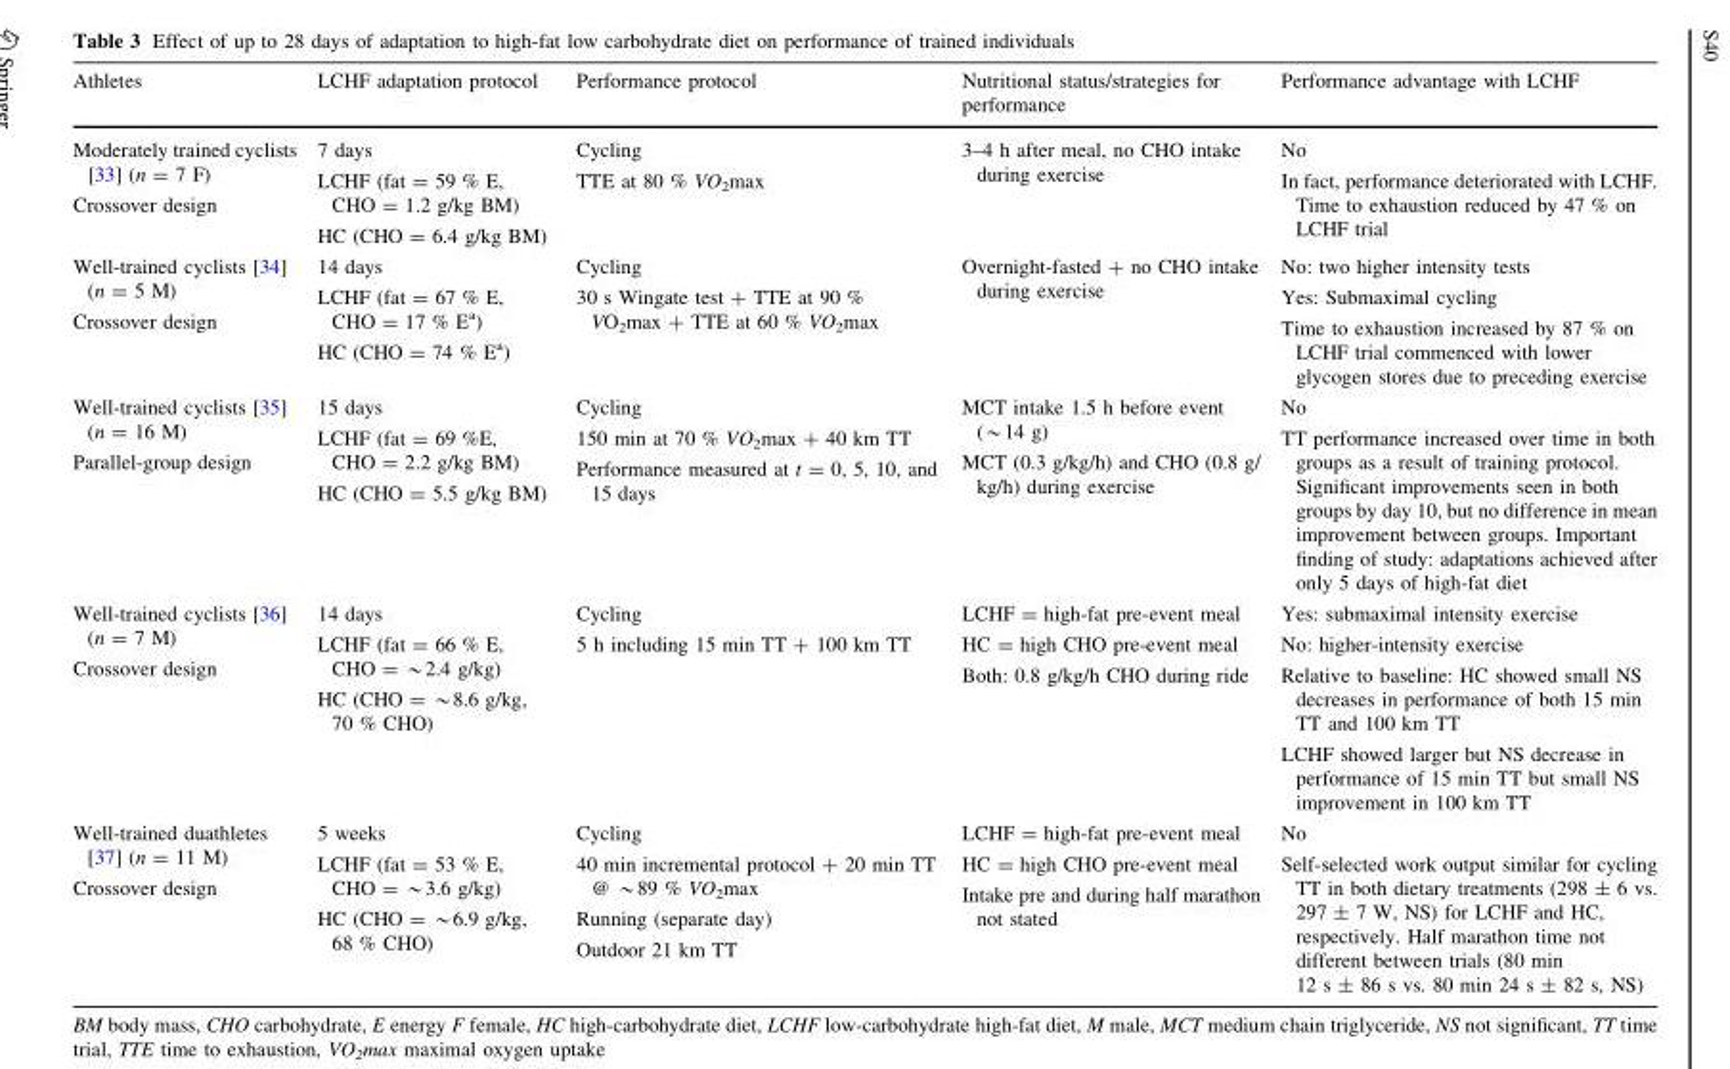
<table><thead><tr><td>Athletes</td><td>LCHF adaptation protocol</td><td>Performance protocol</td><td>Nutritional status/strategies for performance</td><td>Performance advantage with LCHF</td></tr></thead><tbody><tr><td>Moderately trained cyclists [33] (n = 7 F) Crossover design</td><td>7 days LCHF (fat = 59 % E, CHO = 1.2 g/kg BM) HC (CHO = 6.4 g/kg BM)</td><td>Cycling TTE at 80 % VO<sub>2</sub>max</td><td>3–4 h after meal, no CHO intake during exercise</td><td>No In fact, performance deteriorated with LCHF. Time to exhaustion reduced by 47 % on LCHF trial</td></tr><tr><td>Well-trained cyclists [34] (n = 5 M) Crossover design</td><td>14 days LCHF (fat = 67 % E, CHO = 17 % E<sup>a</sup>) HC (CHO = 74 % E<sup>a</sup>)</td><td>Cycling 30 s Wingate test + TTE at 90 % VO<sub>2</sub>max + TTE at 60 % VO<sub>2</sub>max</td><td>Overnight-fasted + no CHO intake during exercise</td><td>No: two higher intensity tests Yes: Submaximal cycling Time to exhaustion increased by 87 % on LCHF trial commenced with lower glycogen stores due to preceding exercise</td></tr><tr><td>Well-trained cyclists [35] (n = 16 M) Parallel-group design</td><td>15 days LCHF (fat = 69 %E, CHO = 2.2 g/kg BM) HC (CHO = 5.5 g/kg BM)</td><td>Cycling 150 min at 70 % VO<sub>2</sub>max + 40 km TT Performance measured at t = 0, 5, 10, and 15 days</td><td>MCT intake 1.5 h before event (*14 g) MCT (0.3 g/kg/h) and CHO (0.8 g/ kg/h) during exercise</td><td>No TT performance increased over time in both groups as a result of training protocol. Significant improvements seen in both groups by day 10, but no difference in mean improvement between groups. Important finding of study: adaptations achieved after only 5 days of high-fat diet</td></tr><tr><td>Well-trained cyclists [36] (n = 7 M) Crossover design</td><td>14 days LCHF (fat = 66 % E, CHO = *2.4 g/kg) HC (CHO = *8.6 g/kg, 70 % CHO)</td><td>Cycling 5 h including 15 min TT + 100 km TT</td><td>LCHF = high-fat pre-event meal HC = high CHO pre-event meal Both: 0.8 g/kg/h CHO during ride</td><td>Yes: submaximal intensity exercise No: higher-intensity exercise Relative to baseline: HC showed small NS decreases in performance of both 15 min TT and 100 km TT LCHF showed larger but NS decrease in performance of 15 min TT but small NS improvement in 100 km TT</td></tr><tr><td>Well-trained duathletes [37] (n = 11 M) Crossover design</td><td>5 weeks LCHF (fat = 53 % E, CHO = *3.6 g/kg) HC (CHO = *6.9 g/kg, 68 % CHO)</td><td>Cycling 40 min incremental protocol ? 20 min TT @ *89 % VO2max Running (separate day) Outdoor 21 km TT</td><td>LCHF = high-fat pre-event meal HC = high CHO pre-event meal Intake pre and during half marathon not stated</td><td>No Self-selected work output similar for cycling TT in both dietary treatments (298 ± 6 vs. 297 ± 7 W, NS) for LCHF and HC, respectively. Half marathon time not different between trials (80 min 12 s ± 86 s vs. 80 min 24 s ± 82 s, NS)</td></tr></tbody></table>